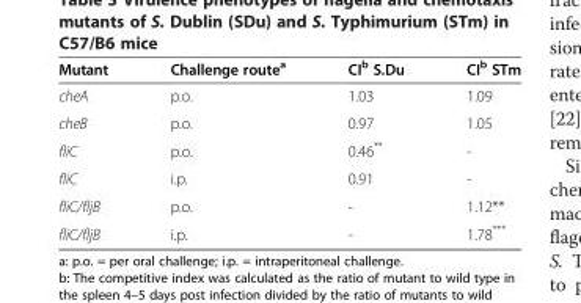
<table><thead><tr><td>Mutant</td><td>Challenge route<sup>a</sup></td><td>CI<sup>b</sup> S.Du</td><td>CI<sup>b</sup> STm</td></tr></thead><tbody><tr><td>cheA</td><td>p.o.</td><td>1.03</td><td>1.09</td></tr><tr><td>cheB</td><td>p.o.</td><td>0.97</td><td>1.05</td></tr><tr><td>fliC</td><td>p.o.</td><td>0.46**</td><td>-</td></tr><tr><td>fliC</td><td>i.p.</td><td>0.91</td><td>-</td></tr><tr><td>fliC/fljB</td><td>p.o.</td><td>-</td><td>1.12**</td></tr><tr><td>fliC/fljB</td><td>i.p.</td><td>-</td><td>1.78***</td></tr></tbody></table>